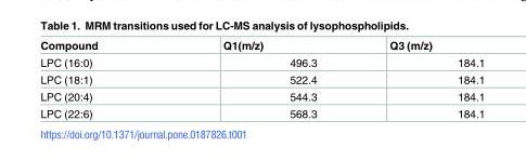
<table><thead><tr><td>Compound</td><td>Q1(m/z)</td><td>Q3 (m/z)</td></tr></thead><tbody><tr><td>LPC (16:0)</td><td>496.3</td><td>184.1</td></tr><tr><td>LPC (18:1)</td><td>522.4</td><td>184.1</td></tr><tr><td>LPC (20:4)</td><td>544.3</td><td>184.1</td></tr><tr><td>LPC (22:6)</td><td>568.3</td><td>184.1</td></tr></tbody></table>